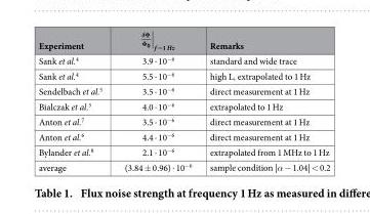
<table><thead><tr><td>Experiment</td><td>Φ = f Hz 0 1</td><td>Remarks</td></tr></thead><tbody><tr><td>Sank et al.<sup>4</sup></td><td>3.9 ⋅ 10<sup>−6</sup></td><td>standard and wide trace</td></tr><tr><td>Sank et al.<sup>4</sup></td><td>5.5 ⋅ 10<sup>−6</sup></td><td>high L, extrapolated to 1 Hz</td></tr><tr><td>Sendelbach et al.<sup>5</sup></td><td>3.5 ⋅ 10<sup>−6</sup></td><td>direct measurement at 1 Hz</td></tr><tr><td>Bialczak et al.<sup>3</sup></td><td>4.0 ⋅ 10<sup>−6</sup></td><td>extrapolated to 1 Hz</td></tr><tr><td>Anton et al.<sup>7</sup></td><td>3.5 ⋅ 10<sup>−6</sup></td><td>direct measurement at 1 Hz</td></tr><tr><td>Anton et al.<sup>6</sup></td><td>4.4 ⋅ 10<sup>−6</sup></td><td>direct measurement at 1 Hz</td></tr><tr><td>Bylander et al.<sup>8</sup></td><td>2.1 ⋅ 10<sup>−6</sup></td><td>extrapolated from 1 MHz to 1 Hz</td></tr><tr><td>average</td><td>(3.84 ± 0.96) ⋅ 10<sup>−6</sup></td><td>sample condition |α − 1.04| &lt; 0.2</td></tr></tbody></table>